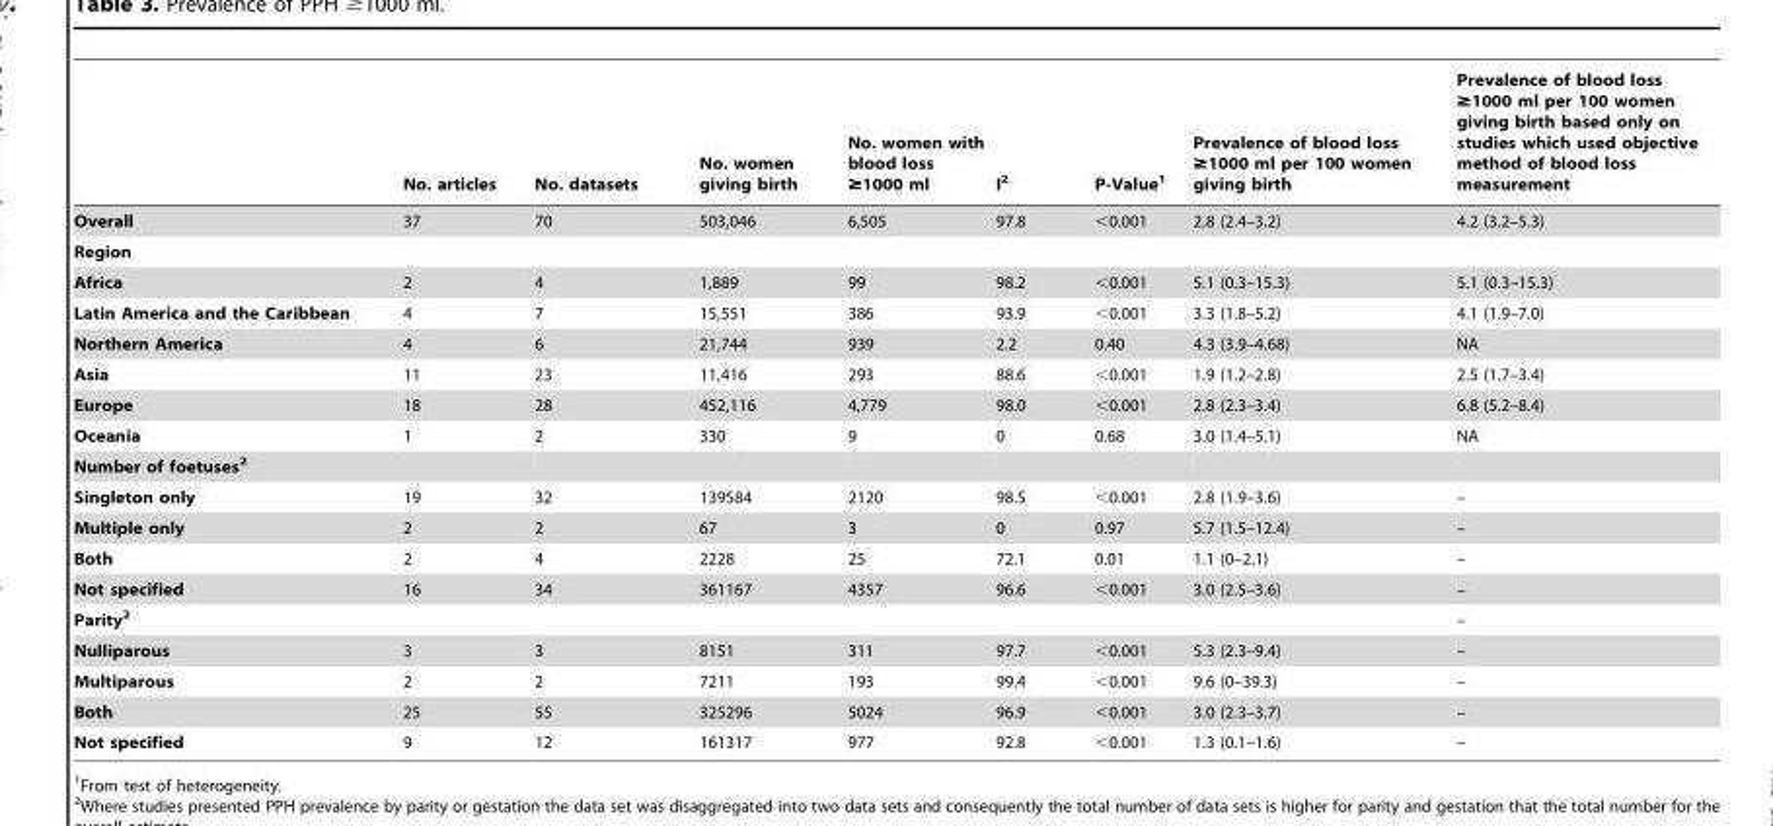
<table><thead><tr><td></td><td>No. articles</td><td>No. datasets</td><td>No. women giving birth</td><td>No. women with blood loss ≥1000 ml</td><td>I<sup>2</sup></td><td>P-Value<sup>1</sup></td><td>Prevalence of blood loss ≥1000 ml per 100 women giving birth</td><td>Prevalence of blood loss ≥1000 ml per 100 women giving birth based only on studies which used objective method of blood loss measurement</td></tr></thead><tbody><tr><td>Overall</td><td>37</td><td>70</td><td>503,046</td><td>6,505</td><td>97.8</td><td>&lt;0.001</td><td>2.8 (2.4–3.2)</td><td>4.2 (3.2–5.3)</td></tr><tr><td colspan="9">Region</td></tr><tr><td>Africa</td><td>2</td><td>4</td><td>1,889</td><td>99</td><td>98.2</td><td>&lt;0.001</td><td>5.1 (0.3–15.3)</td><td>5.1 (0.3–15.3)</td></tr><tr><td>Latin America and the Caribbean</td><td>4</td><td>7</td><td>15,551</td><td>386</td><td>93.9</td><td>&lt;0.001</td><td>3.3 (1.8–5.2)</td><td>4.1 (1.9–7.0)</td></tr><tr><td>Northern America</td><td>4</td><td>6</td><td>21,744</td><td>939</td><td>2.2</td><td>0.40</td><td>4.3 (3.9–4.68)</td><td>NA</td></tr><tr><td>Asia</td><td>11</td><td>23</td><td>11,416</td><td>293</td><td>88.6</td><td>&lt;0.001</td><td>1.9 (1.2–2.8)</td><td>2.5 (1.7–3.4)</td></tr><tr><td>Europe</td><td>18</td><td>28</td><td>452,116</td><td>4,779</td><td>98.0</td><td>&lt;0.001</td><td>2.8 (2.3–3.4)</td><td>6.8 (5.2–8.4)</td></tr><tr><td>Oceania</td><td>1</td><td>2</td><td>330</td><td>9</td><td>0</td><td>0.68</td><td>3.0 (1.4–5.1)</td><td>NA</td></tr><tr><td colspan="9">Number of foetuses2</td></tr><tr><td>Singleton only</td><td>19</td><td>32</td><td>139584</td><td>2120</td><td>98.5</td><td>&lt;0.001</td><td>2.8 (1.9–3.6)</td><td>–</td></tr><tr><td>Multiple only</td><td>2</td><td>2</td><td>67</td><td>3</td><td>0</td><td>0.97</td><td>5.7 (1.5–12.4)</td><td>–</td></tr><tr><td>Both</td><td>2</td><td>4</td><td>2228</td><td>25</td><td>72.1</td><td>0.01</td><td>1.1 (0–2.1)</td><td>–</td></tr><tr><td>Not specified</td><td>16</td><td>34</td><td>361167</td><td>4357</td><td>96.6</td><td>&lt;0.001</td><td>3.0 (2.5–3.6)</td><td>–</td></tr><tr><td>Parity2</td><td></td><td></td><td></td><td></td><td></td><td></td><td></td><td>–</td></tr><tr><td>Nulliparous</td><td>3</td><td>3</td><td>8151</td><td>311</td><td>97.7</td><td>&lt;0.001</td><td>5.3 (2.3–9.4)</td><td>–</td></tr><tr><td>Multiparous</td><td>2</td><td>2</td><td>7211</td><td>193</td><td>99.4</td><td>&lt;0.001</td><td>9.6 (0–39.3)</td><td>–</td></tr><tr><td>Both</td><td>25</td><td>55</td><td>325296</td><td>5024</td><td>96.9</td><td>&lt;0.001</td><td>3.0 (2.3–3.7)</td><td>–</td></tr><tr><td>Not specified</td><td>9</td><td>12</td><td>161317</td><td>977</td><td>92.8</td><td>&lt;0.001</td><td>1.3 (0.1–1.6)</td><td>–</td></tr></tbody></table>